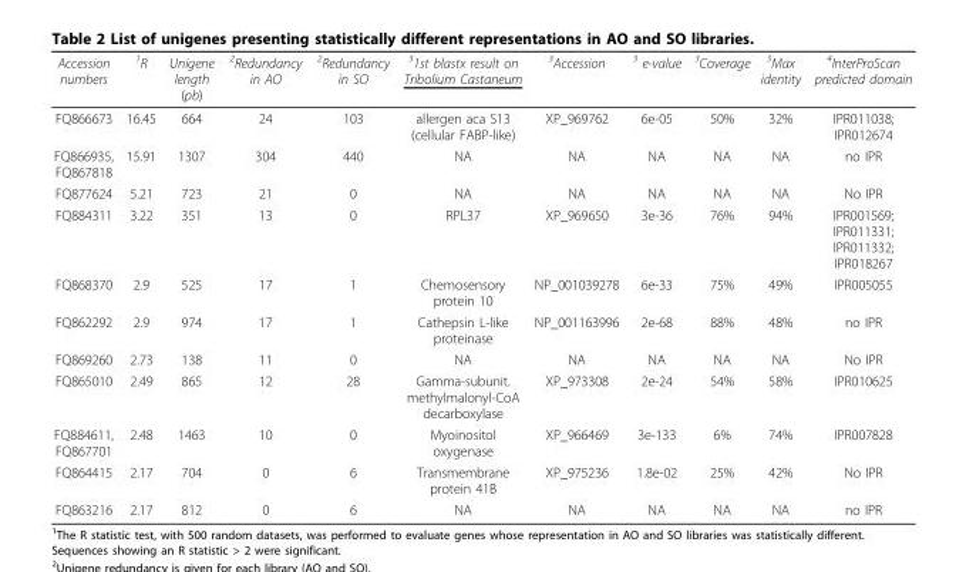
<table><thead><tr><td>Accession numbers</td><td><sup>1</sup>R</td><td>Unigene length (pb)</td><td><sup>2</sup>Redundancy in AO</td><td><sup>2</sup>Redundancy in SO</td><td><sup>3</sup>1st blastx result on Tribolium Castaneum</td><td><sup>3</sup>Accession</td><td><sup>3</sup> e-value</td><td><sup>3</sup>Coverage</td><td><sup>3</sup>Max identity</td><td><sup>4</sup>InterProScan predicted domain</td></tr></thead><tbody><tr><td>FQ866673</td><td>16.45</td><td>664</td><td>24</td><td>103</td><td>allergen aca S13 (cellular FABP-like)</td><td>XP_969762</td><td>6e-05</td><td>50%</td><td>32%</td><td>IPR011038; IPR012674</td></tr><tr><td>FQ866935, FQ867818</td><td>15.91</td><td>1307</td><td>304</td><td>440</td><td>NA</td><td>NA</td><td>NA</td><td>NA</td><td>NA</td><td>no IPR</td></tr><tr><td>FQ877624</td><td>5.21</td><td>723</td><td>21</td><td>0</td><td>NA</td><td>NA</td><td>NA</td><td>NA</td><td>NA</td><td>No IPR</td></tr><tr><td>FQ884311</td><td>3.22</td><td>351</td><td>13</td><td>0</td><td>RPL37</td><td>XP_969650</td><td>3e-36</td><td>76%</td><td>94%</td><td>IPR001569; IPR011331; IPR011332; IPR018267</td></tr><tr><td>FQ868370</td><td>2.9</td><td>525</td><td>17</td><td>1</td><td>Chemosensory protein 10</td><td>NP_001039278</td><td>6e-33</td><td>75%</td><td>49%</td><td>IPR005055</td></tr><tr><td>FQ862292</td><td>2.9</td><td>974</td><td>17</td><td>1</td><td>Cathepsin L-like proteinase</td><td>NP_001163996</td><td>2e-68</td><td>88%</td><td>48%</td><td>no IPR</td></tr><tr><td>FQ869260</td><td>2.73</td><td>138</td><td>11</td><td>0</td><td>NA</td><td>NA</td><td>NA</td><td>NA</td><td>NA</td><td>No IPR</td></tr><tr><td>FQ865010</td><td>2.49</td><td>865</td><td>12</td><td>28</td><td>Gamma-subunit. methylmalonyl-CoA decarboxylase</td><td>XP_973308</td><td>2e-24</td><td>54%</td><td>58%</td><td>IPR010625</td></tr><tr><td>FQ884611, FQ867701</td><td>2.48</td><td>1463</td><td>10</td><td>0</td><td>Myoinositol oxygenase</td><td>XP_966469</td><td>3e-133</td><td>6%</td><td>74%</td><td>IPR007828</td></tr><tr><td>FQ864415</td><td>2.17</td><td>704</td><td>0</td><td>6</td><td>Transmembrane protein 41B</td><td>XP_975236</td><td>1.8e-02</td><td>25%</td><td>42%</td><td>No IPR</td></tr><tr><td>FQ863216</td><td>2.17</td><td>812</td><td>0</td><td>6</td><td>NA</td><td>NA</td><td>NA</td><td>NA</td><td>NA</td><td>no IPR</td></tr></tbody></table>